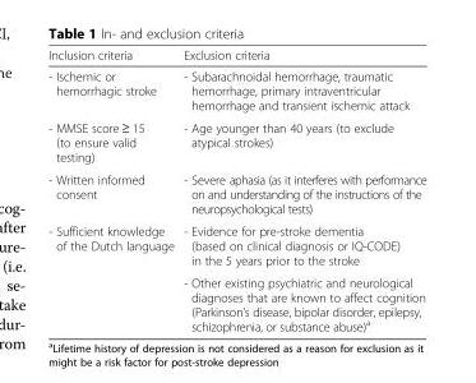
<table><thead><tr><td>Inclusion criteria</td><td>Exclusion criteria</td></tr></thead><tbody><tr><td>- Ischemic or hemorrhagic stroke</td><td>- Subarachnoidal hemorrhage, traumatic hemorrhage, primary intraventricular hemorrhage and transient ischemic attack</td></tr><tr><td>- MMSE score ≥ 15 (to ensure valid testing)</td><td>- Age younger than 40 years (to exclude atypical strokes)</td></tr><tr><td>- Written informed consent</td><td>- Severe aphasia (as it interferes with performance on and understanding of the instructions of the neuropsychological tests)</td></tr><tr><td rowspan="2">- Sufficient knowledge of the Dutch language</td><td>- Evidence for pre-stroke dementia (based on clinical diagnosis or IQ-CODE) in the 5 years prior to the stroke</td></tr><tr><td>- Other existing psychiatric and neurological diagnoses that are known to affect cognition (Parkinson’s disease, bipolar disorder, epilepsy, schizophrenia, or substance abuse)<sup>a</sup></td></tr></tbody></table>